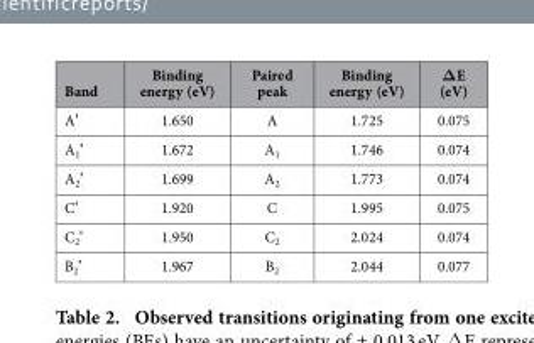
<table><thead><tr><td>Band</td><td>Binding energy (eV)</td><td>Paired peak</td><td>Binding energy (eV)</td><td>ΔE (eV)</td></tr></thead><tbody><tr><td>A&#x27;</td><td>1.650</td><td>A</td><td>1.725</td><td>0.075</td></tr><tr><td>A<sub>1</sub>&#x27;</td><td>1.672</td><td>A<sub>1</sub></td><td>1.746</td><td>0.074</td></tr><tr><td>A<sub>2</sub>&#x27;</td><td>1.699</td><td>A<sub>2</sub></td><td>1.773</td><td>0.074</td></tr><tr><td>C&#x27;</td><td>1.920</td><td>C</td><td>1.995</td><td>0.075</td></tr><tr><td>C<sub>2</sub>&#x27;</td><td>1.950</td><td>C<sub>2</sub></td><td>2.024</td><td>0.074</td></tr><tr><td>B<sub>2</sub>&#x27;</td><td>1.967</td><td>B<sub>2</sub></td><td>2.044</td><td>0.077</td></tr></tbody></table>